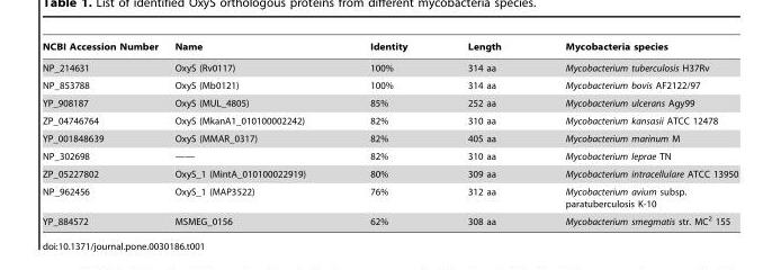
<table><thead><tr><td>NCBI Accession Number</td><td>Name</td><td>Identity</td><td>Length</td><td>Mycobacteria species</td></tr></thead><tbody><tr><td>NP_214631</td><td>OxyS (Rv0117)</td><td>100%</td><td>314 aa</td><td>Mycobacterium tuberculosis H37Rv</td></tr><tr><td>NP_853788</td><td>OxyS (Mb0121)</td><td>100%</td><td>314 aa</td><td>Mycobacterium bovis AF2122/97</td></tr><tr><td>YP_908187</td><td>OxyS (MUL_4805)</td><td>85%</td><td>252 aa</td><td>Mycobacterium ulcerans Agy99</td></tr><tr><td>ZP_04746764</td><td>OxyS (MkanA1_010100002242)</td><td>82%</td><td>310 aa</td><td>Mycobacterium kansasii ATCC 12478</td></tr><tr><td>YP_001848639</td><td>OxyS (MMAR_0317)</td><td>82%</td><td>405 aa</td><td>Mycobacterium marinum M</td></tr><tr><td>NP_302698</td><td>——</td><td>82%</td><td>310 aa</td><td>Mycobacterium leprae TN</td></tr><tr><td>ZP_05227802</td><td>OxyS_1 (MintA_010100022919)</td><td>80%</td><td>309 aa</td><td>Mycobacterium intracellulare ATCC 13950</td></tr><tr><td>NP_962456</td><td>OxyS_1 (MAP3522)</td><td>76%</td><td>312 aa</td><td>Mycobacterium avium subsp. paratuberculosis K-10</td></tr><tr><td>YP_884572</td><td>MSMEG_0156</td><td>62%</td><td>308 aa</td><td>Mycobacterium smegmatis str. MC<sup>2</sup> 155</td></tr></tbody></table>